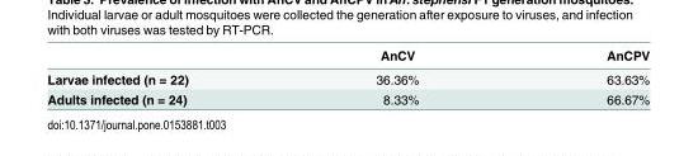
<table><thead><tr><td></td><td>AnCV</td><td>AnCPV</td></tr></thead><tbody><tr><td>Larvae infected (n = 22)</td><td>36.36%</td><td>63.63%</td></tr><tr><td>Adults infected (n = 24)</td><td>8.33%</td><td>66.67%</td></tr></tbody></table>